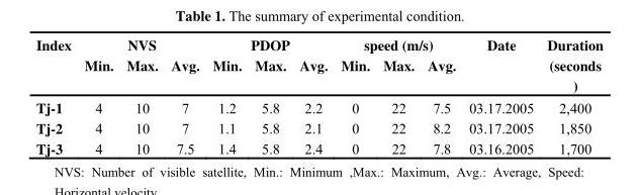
<table><thead><tr><td rowspan="2">Index</td><td colspan="3">NVS</td><td colspan="3">PDOP</td><td colspan="3">speed (m/s)</td><td rowspan="2">Date</td><td rowspan="2">Duration (seconds )</td></tr><tr><td>Min.</td><td>Max.</td><td>Avg.</td><td>Min.</td><td>Max.</td><td>Avg.</td><td>Min.</td><td>Max.</td><td>Avg.</td></tr></thead><tbody><tr><td>Tj-1</td><td>4</td><td>10</td><td>7</td><td>1.2</td><td>5.8</td><td>2.2</td><td>0</td><td>22</td><td>7.5</td><td>03.17.2005</td><td>2,400</td></tr><tr><td>Tj-2</td><td>4</td><td>10</td><td>7</td><td>1.1</td><td>5.8</td><td>2.1</td><td>0</td><td>22</td><td>8.2</td><td>03.17.2005</td><td>1,850</td></tr><tr><td>Tj-3</td><td>4</td><td>10</td><td>7.5</td><td>1.4</td><td>5.8</td><td>2.4</td><td>0</td><td>22</td><td>7.8</td><td>03.16.2005</td><td>1,700</td></tr></tbody></table>